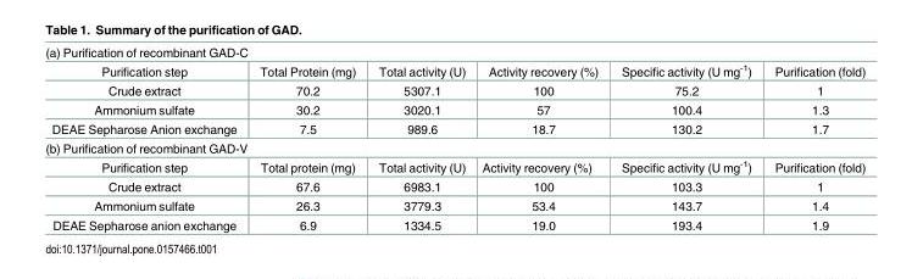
<table><tbody><tr><td colspan="6">(a) Purification of recombinant GAD-C</td></tr><tr><td>Purification step</td><td>Total Protein (mg)</td><td>Total activity (U)</td><td>Activity recovery (%)</td><td>Specific activity (U mg<sup>-1</sup>)</td><td>Purification (fold)</td></tr><tr><td>Crude extract</td><td>70.2</td><td>5307.1</td><td>100</td><td>75.2</td><td>1</td></tr><tr><td>Ammonium sulfate</td><td>30.2</td><td>3020.1</td><td>57</td><td>100.4</td><td>1.3</td></tr><tr><td>DEAE Sepharose Anion exchange</td><td>7.5</td><td>989.6</td><td>18.7</td><td>130.2</td><td>1.7</td></tr><tr><td colspan="6">(b) Purification of recombinant GAD-V</td></tr><tr><td>Purification step</td><td>Total protein (mg)</td><td>Total activity (U)</td><td>Activity recovery (%)</td><td>Specific activity (U mg<sup>-1</sup>)</td><td>Purification (fold)</td></tr><tr><td>Crude extract</td><td>67.6</td><td>6983.1</td><td>100</td><td>103.3</td><td>1</td></tr><tr><td>Ammonium sulfate</td><td>26.3</td><td>3779.3</td><td>53.4</td><td>143.7</td><td>1.4</td></tr><tr><td>DEAE Sepharose anion exchange</td><td>6.9</td><td>1334.5</td><td>19.0</td><td>193.4</td><td>1.9</td></tr></tbody></table>